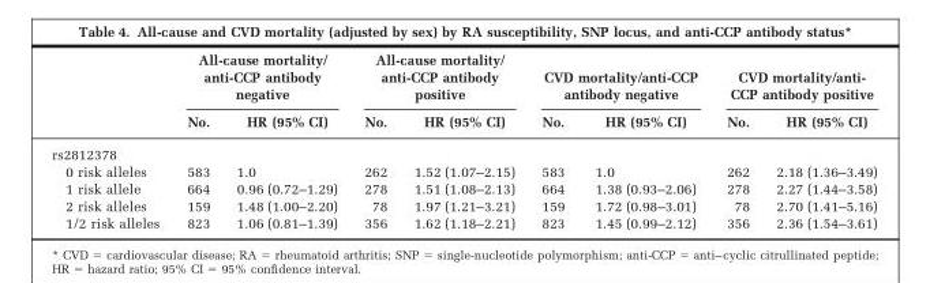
<table><thead><tr><td rowspan="2"></td><td colspan="2">All-cause mortality/ anti-CCP antibody negative</td><td colspan="2">All-cause mortality/ anti-CCP antibody positive</td><td colspan="2">CVD mortality/anti-CCP antibody negative</td><td colspan="2">CVD mortality/anti- CCP antibody positive</td></tr><tr><td>No.</td><td>HR (95% CI)</td><td>No.</td><td>HR (95% CI)</td><td>No.</td><td>HR (95% CI)</td><td>No.</td><td>HR (95% CI)</td></tr></thead><tbody><tr><td colspan="9">rs2812378</td></tr><tr><td>0 risk alleles</td><td>583</td><td>1.0</td><td>262</td><td>1.52 (1.07–2.15)</td><td>583</td><td>1.0</td><td>262</td><td>2.18 (1.36–3.49)</td></tr><tr><td>1 risk allele</td><td>664</td><td>0.96 (0.72–1.29)</td><td>278</td><td>1.51 (1.08–2.13)</td><td>664</td><td>1.38 (0.93–2.06)</td><td>278</td><td>2.27 (1.44–3.58)</td></tr><tr><td>2 risk alleles</td><td>159</td><td>1.48 (1.00–2.20)</td><td>78</td><td>1.97 (1.21–3.21)</td><td>159</td><td>1.72 (0.98–3.01)</td><td>78</td><td>2.70 (1.41–5.16)</td></tr><tr><td>1/2 risk alleles</td><td>823</td><td>1.06 (0.81–1.39)</td><td>356</td><td>1.62 (1.18–2.21)</td><td>823</td><td>1.45 (0.99–2.12)</td><td>356</td><td>2.36 (1.54–3.61)</td></tr></tbody></table>